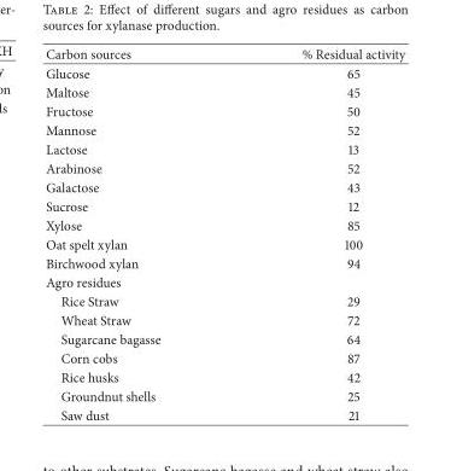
<table><thead><tr><td>Carbon sources</td><td>% Residual activity</td></tr></thead><tbody><tr><td>Glucose</td><td>65</td></tr><tr><td>Maltose</td><td>45</td></tr><tr><td>Fructose</td><td>50</td></tr><tr><td>Mannose</td><td>52</td></tr><tr><td>Lactose</td><td>13</td></tr><tr><td>Arabinose</td><td>52</td></tr><tr><td>Galactose</td><td>43</td></tr><tr><td>Sucrose</td><td>12</td></tr><tr><td>Xylose</td><td>85</td></tr><tr><td>Oat spelt xylan</td><td>100</td></tr><tr><td>Birchwood xylan</td><td>94</td></tr><tr><td colspan="2">Agro residues</td></tr><tr><td>Rice Straw</td><td>29</td></tr><tr><td>Wheat Straw</td><td>72</td></tr><tr><td>Sugarcane bagasse</td><td>64</td></tr><tr><td>Corn cobs</td><td>87</td></tr><tr><td>Rice husks</td><td>42</td></tr><tr><td>Groundnut shells</td><td>25</td></tr><tr><td>Saw dust</td><td>21</td></tr></tbody></table>